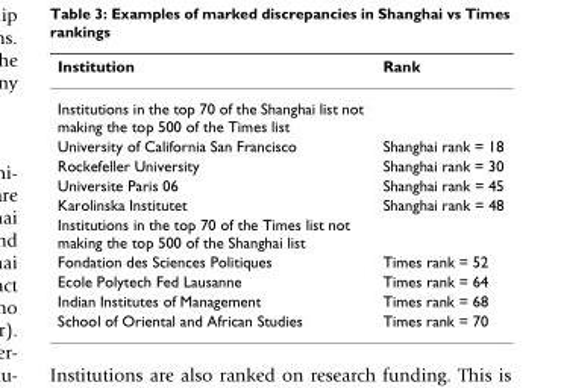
<table><thead><tr><td>Institution</td><td>Rank</td></tr></thead><tbody><tr><td colspan="2">Institutions in the top 70 of the Shanghai list not making the top 500 of the Times list</td></tr><tr><td>University of California San Francisco</td><td>Shanghai rank = 18</td></tr><tr><td>Rockefeller University</td><td>Shanghai rank = 30</td></tr><tr><td>Universite Paris 06</td><td>Shanghai rank = 45</td></tr><tr><td>Karolinska Institutet</td><td>Shanghai rank = 48</td></tr><tr><td colspan="2">Institutions in the top 70 of the Times list not making the top 500 of the Shanghai list</td></tr><tr><td>Fondation des Sciences Politiques</td><td>Times rank = 52</td></tr><tr><td>Ecole Polytech Fed Lausanne</td><td>Times rank = 64</td></tr><tr><td>Indian Institutes of Management</td><td>Times rank = 68</td></tr><tr><td>School of Oriental and African Studies</td><td>Times rank = 70</td></tr></tbody></table>